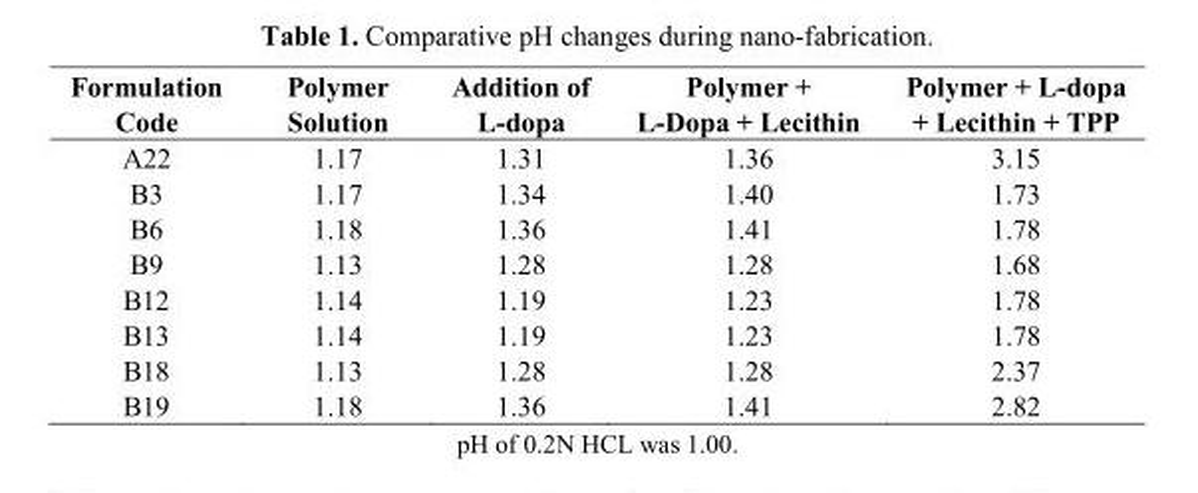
<table><thead><tr><td>Formulation Code</td><td>Polymer Solution</td><td>Addition of L-dopa</td><td>Polymer + L-Dopa + Lecithin</td><td>Polymer + L-dopa + Lecithin + TPP</td></tr></thead><tbody><tr><td>A22</td><td>1.17</td><td>1.31</td><td>1.36</td><td>3.15</td></tr><tr><td>B3</td><td>1.17</td><td>1.34</td><td>1.40</td><td>1.73</td></tr><tr><td>B6</td><td>1.18</td><td>1.36</td><td>1.41</td><td>1.78</td></tr><tr><td>B9</td><td>1.13</td><td>1.28</td><td>1.28</td><td>1.68</td></tr><tr><td>B12</td><td>1.14</td><td>1.19</td><td>1.23</td><td>1.78</td></tr><tr><td>B13</td><td>1.14</td><td>1.19</td><td>1.23</td><td>1.78</td></tr><tr><td>B18</td><td>1.13</td><td>1.28</td><td>1.28</td><td>2.37</td></tr><tr><td>B19</td><td>1.18</td><td>1.36</td><td>1.41</td><td>2.82</td></tr></tbody></table>